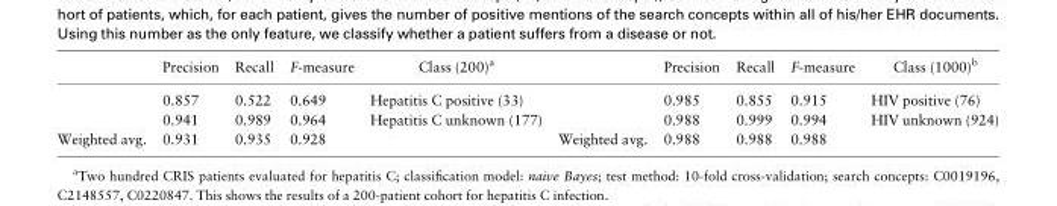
<table><thead><tr><td></td><td>Precision</td><td>Recall</td><td>F-measure</td><td>Class (200)<sup>a</sup></td><td></td><td>Precision</td><td>Recall</td><td>F-measure</td><td>Class (1000)<sup>b</sup></td></tr></thead><tbody><tr><td></td><td>0.857</td><td>0.522</td><td>0.649</td><td>Hepatitis C positive (33)</td><td></td><td>0.985</td><td>0.855</td><td>0.915</td><td>HIV positive (76)</td></tr><tr><td></td><td>0.941</td><td>0.989</td><td>0.964</td><td>Hepatitis C unknown (177)</td><td></td><td>0.988</td><td>0.999</td><td>0.994</td><td>HIV unknown (924)</td></tr><tr><td>Weighted avg.</td><td>0.931</td><td>0.935</td><td>0.928</td><td></td><td>Weighted avg.</td><td>0.988</td><td>0.988</td><td>0.988</td><td></td></tr></tbody></table>